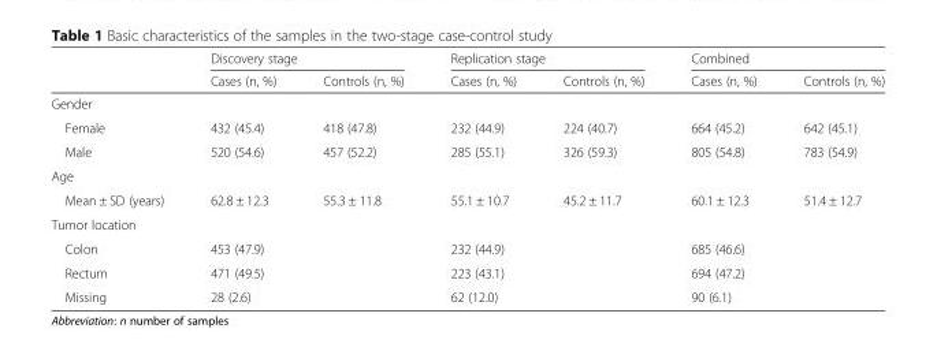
<table><thead><tr><td rowspan="2"></td><td colspan="2">Discovery stage</td><td colspan="2">Replication stage</td><td colspan="2">Combined</td></tr><tr><td>Cases (n, %)</td><td>Controls (n, %)</td><td>Cases (n, %)</td><td>Controls (n, %)</td><td>Cases (n, %)</td><td>Controls (n, %)</td></tr></thead><tbody><tr><td colspan="7">Gender</td></tr><tr><td>Female</td><td>432 (45.4)</td><td>418 (47.8)</td><td>232 (44.9)</td><td>224 (40.7)</td><td>664 (45.2)</td><td>642 (45.1)</td></tr><tr><td>Male</td><td>520 (54.6)</td><td>457 (52.2)</td><td>285 (55.1)</td><td>326 (59.3)</td><td>805 (54.8)</td><td>783 (54.9)</td></tr><tr><td colspan="7">Age</td></tr><tr><td>Mean ± SD (years)</td><td>62.8 ± 12.3</td><td>55.3 ± 11.8</td><td>55.1 ± 10.7</td><td>45.2 ± 11.7</td><td>60.1 ± 12.3</td><td>51.4 ± 12.7</td></tr><tr><td colspan="7">Tumor location</td></tr><tr><td>Colon</td><td>453 (47.9)</td><td></td><td>232 (44.9)</td><td></td><td>685 (46.6)</td><td></td></tr><tr><td>Rectum</td><td>471 (49.5)</td><td></td><td>223 (43.1)</td><td></td><td>694 (47.2)</td><td></td></tr><tr><td>Missing</td><td>28 (2.6)</td><td></td><td>62 (12.0)</td><td></td><td>90 (6.1)</td><td></td></tr></tbody></table>